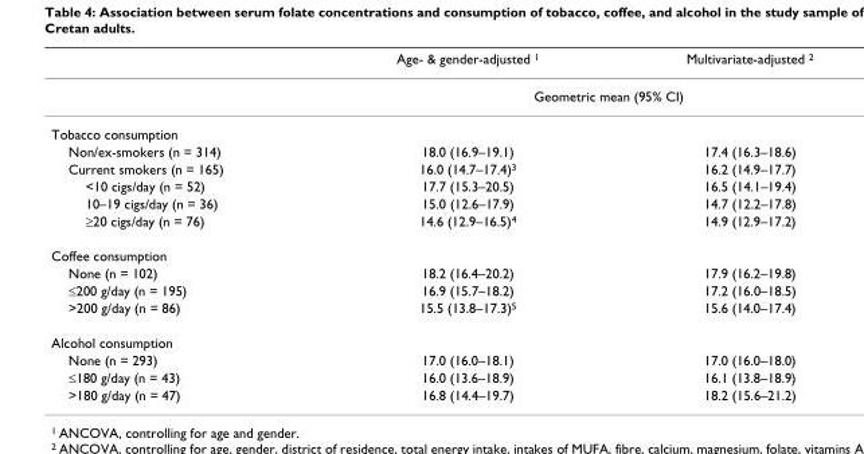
<table><thead><tr><td></td><td>Age- &amp; gender-adjusted <sup>1</sup></td><td>Multivariate-adjusted <sup>2</sup></td></tr></thead><tbody><tr><td></td><td colspan="2">Geometric mean (95% CI)</td></tr><tr><td colspan="3">Tobacco consumption</td></tr><tr><td>Non/ex-smokers (n = 314)</td><td>18.0 (16.9–19.1)</td><td>17.4 (16.3–18.6)</td></tr><tr><td>Current smokers (n = 165)</td><td>16.0 (14.7–17.4)<sup>3</sup></td><td>16.2 (14.9–17.7)</td></tr><tr><td>&lt;10 cigs/day (n = 52)</td><td>17.7 (15.3–20.5)</td><td>16.5 (14.1–19.4)</td></tr><tr><td>10–19 cigs/day (n = 36)</td><td>15.0 (12.6–17.9)</td><td>14.7 (12.2–17.8)</td></tr><tr><td>≥20 cigs/day (n = 76)</td><td>14.6 (12.9–16.5)<sup>4</sup></td><td>14.9 (12.9–17.2)</td></tr><tr><td colspan="3">Coffee consumption</td></tr><tr><td>None (n = 102)</td><td>18.2 (16.4–20.2)</td><td>17.9 (16.2–19.8)</td></tr><tr><td>≤200 g/day (n = 195)</td><td>16.9 (15.7–18.2)</td><td>17.2 (16.0–18.5)</td></tr><tr><td>&gt;200 g/day (n = 86)</td><td>15.5 (13.8–17.3)<sup>5</sup></td><td>15.6 (14.0–17.4)</td></tr><tr><td colspan="3">Alcohol consumption</td></tr><tr><td>None (n = 293)</td><td>17.0 (16.0–18.1)</td><td>17.0 (16.0–18.0)</td></tr><tr><td>≤180 g/day (n = 43)</td><td>16.0 (13.6–18.9)</td><td>16.1 (13.8–18.9)</td></tr><tr><td>&gt;180 g/day (n = 47)</td><td>16.8 (14.4–19.7)</td><td>18.2 (15.6–21.2)</td></tr></tbody></table>